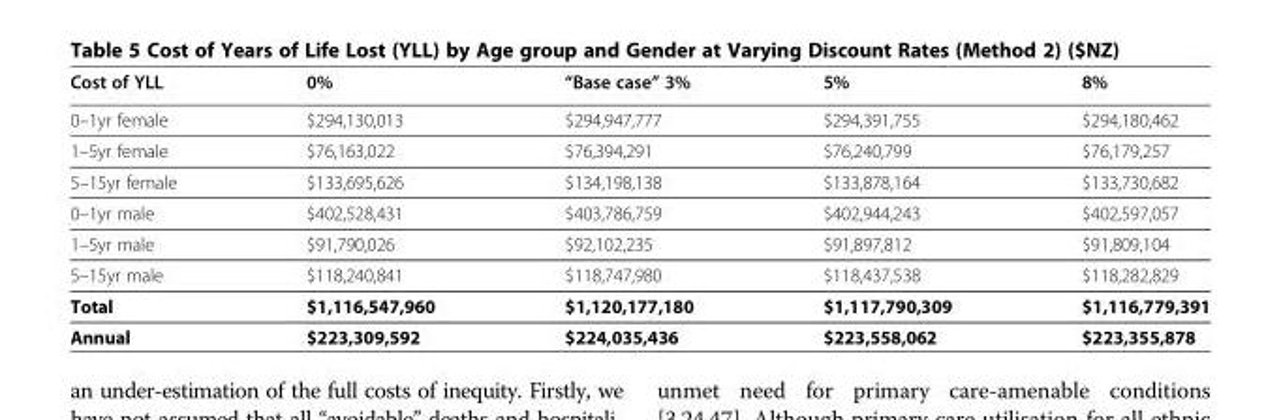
<table><thead><tr><td>Cost of YLL</td><td>0%</td><td>“Base case” 3%</td><td>5%</td><td>8%</td></tr></thead><tbody><tr><td>0–1yr female</td><td>$294,130,013</td><td>$294,947,777</td><td>$294,391,755</td><td>$294,180,462</td></tr><tr><td>1–5yr female</td><td>$76,163,022</td><td>$76,394,291</td><td>$76,240,799</td><td>$76,179,257</td></tr><tr><td>5–15yr female</td><td>$133,695,626</td><td>$134,198,138</td><td>$133,878,164</td><td>$133,730,682</td></tr><tr><td>0–1yr male</td><td>$402,528,431</td><td>$403,786,759</td><td>$402,944,243</td><td>$402,597,057</td></tr><tr><td>1–5yr male</td><td>$91,790,026</td><td>$92,102,235</td><td>$91,897,812</td><td>$91,809,104</td></tr><tr><td>5–15yr male</td><td>$118,240,841</td><td>$118,747,980</td><td>$118,437,538</td><td>$118,282,829</td></tr><tr><td>Total</td><td>$1,116,547,960</td><td>$1,120,177,180</td><td>$1,117,790,309</td><td>$1,116,779,391</td></tr><tr><td>Annual</td><td>$223,309,592</td><td>$224,035,436</td><td>$223,558,062</td><td>$223,355,878</td></tr></tbody></table>